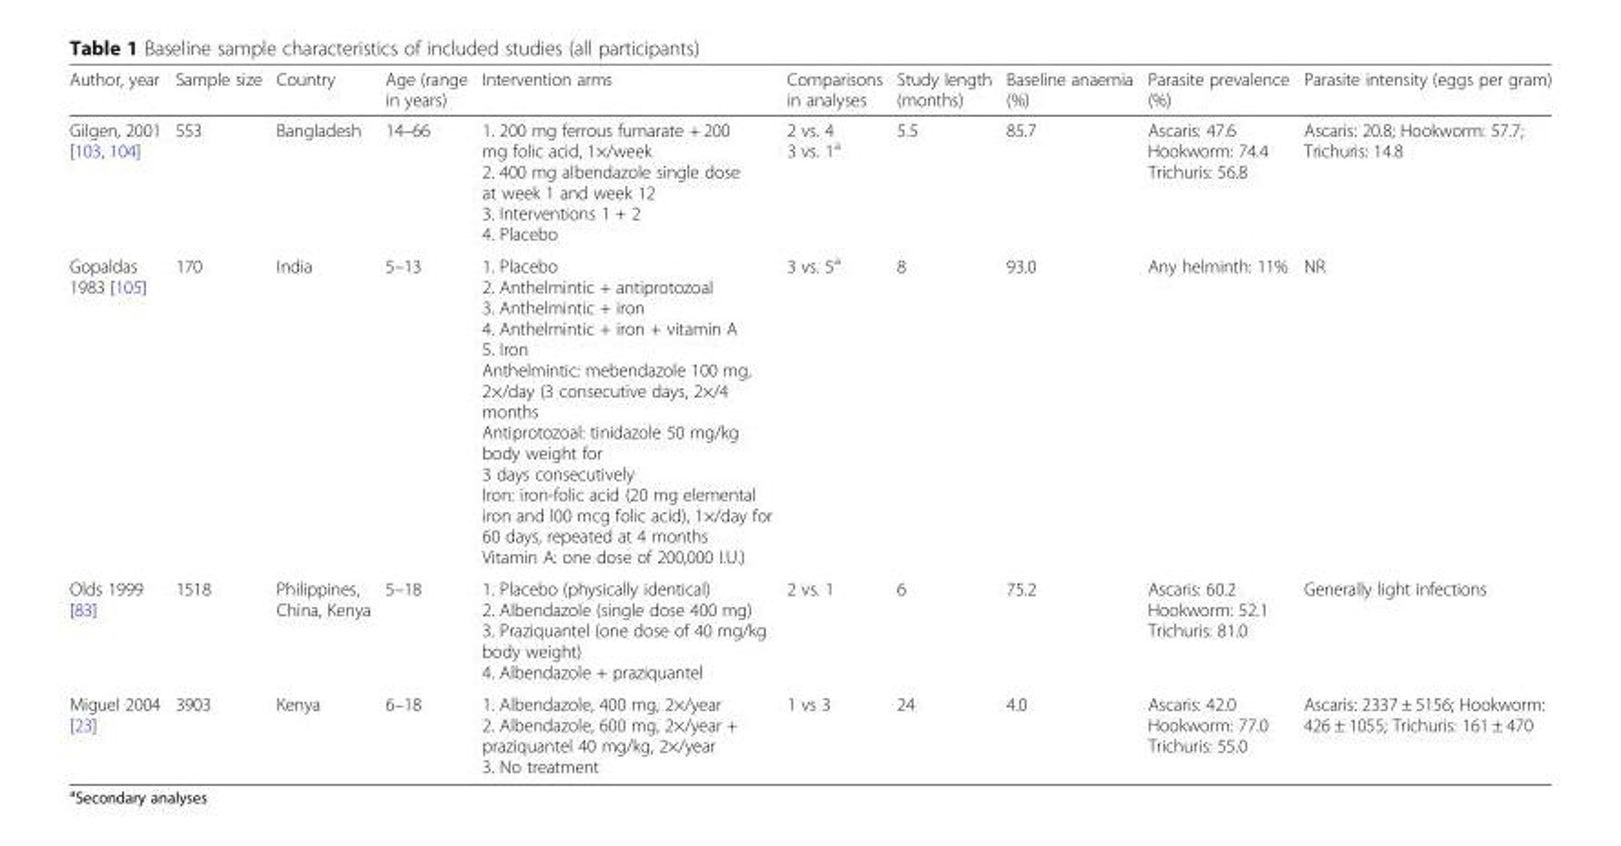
<table><thead><tr><td>Author, year</td><td>Sample size</td><td>Country</td><td>Age (range in years)</td><td>Intervention arms</td><td>Comparisons in analyses</td><td>Study length (months)</td><td>Baseline anaemia (%)</td><td>Parasite prevalence (%)</td><td>Parasite intensity (eggs per gram)</td></tr></thead><tbody><tr><td>Gilgen, 2001 [103, 104]</td><td>553</td><td>Bangladesh</td><td>14–66</td><td>1. 200 mg ferrous fumarate + 200 mg folic acid, 1×/week 2. 400 mg albendazole single dose at week 1 and week 12 3. Interventions 1 + 2 4. Placebo</td><td>2 vs. 4 3 vs. 1<sup>a</sup></td><td>5.5</td><td>85.7</td><td>Ascaris: 47.6 Hookworm: 74.4 Trichuris: 56.8</td><td>Ascaris: 20.8; Hookworm: 57.7; Trichuris: 14.8</td></tr><tr><td>Gopaldas 1983 [105]</td><td>170</td><td>India</td><td>5–13</td><td>1. Placebo 2. Anthelmintic + antiprotozoal 3. Anthelmintic + iron 4. Anthelmintic + iron + vitamin A 5. Iron Anthelmintic: mebendazole 100 mg, 2×/day (3 consecutive days, 2×/4 months Antiprotozoal: tinidazole 50 mg/kg body weight for 3 days consecutively Iron: iron-folic acid (20 mg elemental iron and l00 mcg folic acid), 1×/day for 60 days, repeated at 4 months Vitamin A: one dose of 200,000 I.U.)</td><td>3 vs. 5<sup>a</sup></td><td>8</td><td>93.0</td><td>Any helminth: 11%</td><td>NR</td></tr><tr><td>Olds 1999 [83]</td><td>1518</td><td>Philippines, China, Kenya</td><td>5–18</td><td>1. Placebo (physically identical) 2. Albendazole (single dose 400 mg) 3. Praziquantel (one dose of 40 mg/kg body weight) 4. Albendazole + praziquantel</td><td>2 vs. 1</td><td>6</td><td>75.2</td><td>Ascaris: 60.2 Hookworm: 52.1 Trichuris: 81.0</td><td>Generally light infections</td></tr><tr><td>Miguel 2004 [23]</td><td>3903</td><td>Kenya</td><td>6–18</td><td>1. Albendazole, 400 mg, 2×/year 2. Albendazole, 600 mg, 2×/year + praziquantel 40 mg/kg, 2×/year 3. No treatment</td><td>1 vs 3</td><td>24</td><td>4.0</td><td>Ascaris: 42.0 Hookworm: 77.0 Trichuris: 55.0</td><td>Ascaris: 2337 ± 5156; Hookworm: 426 ± 1055; Trichuris: 161 ± 470</td></tr></tbody></table>